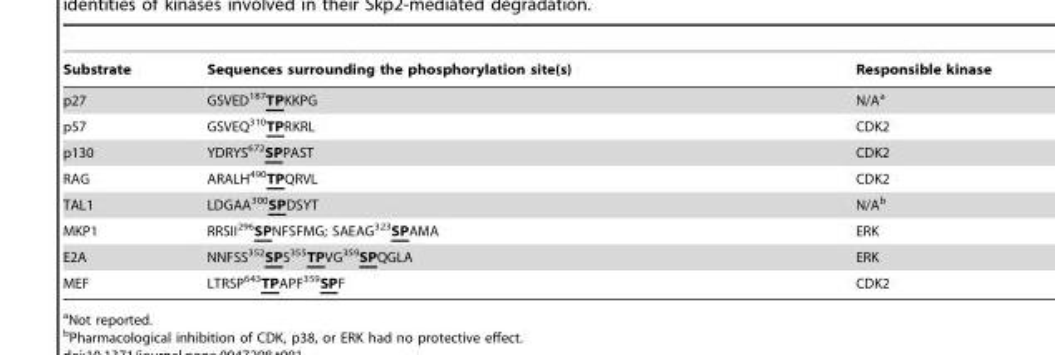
<table><thead><tr><td>Substrate</td><td>Sequences surrounding the phosphorylation site(s)</td><td>Responsible kinase</td></tr></thead><tbody><tr><td>p27</td><td>GSVED<sup>187</sup>TPKKPG</td><td>N/A<sup>a</sup></td></tr><tr><td>p57</td><td>GSVEQ<sup>310</sup>TPRKRL</td><td>CDK2</td></tr><tr><td>p130</td><td>YDRYS<sup>672</sup>SPPAST</td><td>CDK2</td></tr><tr><td>RAG</td><td>ARALH<sup>490</sup>TPQRVL</td><td>CDK2</td></tr><tr><td>TAL1</td><td>LDGAA<sup>300</sup>SPDSYT</td><td>N/A<sup>b</sup></td></tr><tr><td>MKP1</td><td>RRSII<sup>296</sup>SPNFSFMG; SAEAG<sup>323</sup>SPAMA</td><td>ERK</td></tr><tr><td>E2A</td><td>NNFSS<sup>352</sup>SPS<sup>355</sup>TPVG<sup>359</sup>SPQGLA</td><td>ERK</td></tr><tr><td>MEF</td><td>LTRSP<sup>643</sup>TPAPF<sup>359</sup>SPF</td><td>CDK2</td></tr></tbody></table>